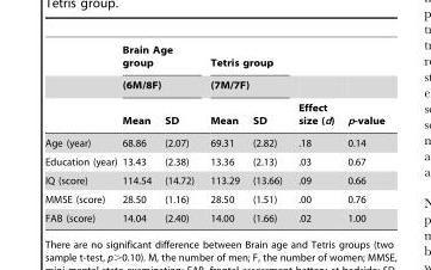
<table><thead><tr><td rowspan="3"></td><td rowspan="2" colspan="2">Brain Age group (6M/8F)</td><td rowspan="2" colspan="2">Tetris group (7M/7F)</td><td rowspan="3">Effect size (d)</td><td rowspan="3">p-value</td></tr><tr></tr><tr><td>Mean</td><td>SD</td><td>Mean</td><td>SD</td></tr></thead><tbody><tr><td>Age (year)</td><td>68.86</td><td>(2.07)</td><td>69.31</td><td>(2.82)</td><td>.18</td><td>0.14</td></tr><tr><td>Education (year)</td><td>13.43</td><td>(2.38)</td><td>13.36</td><td>(2.13)</td><td>.03</td><td>0.67</td></tr><tr><td>IQ (score)</td><td>114.54</td><td>(14.72)</td><td>113.29</td><td>(13.66)</td><td>.09</td><td>0.66</td></tr><tr><td>MMSE (score)</td><td>28.50</td><td>(1.16)</td><td>28.50</td><td>(1.51)</td><td>.00</td><td>0.76</td></tr><tr><td>FAB (score)</td><td>14.04</td><td>(2.40)</td><td>14.00</td><td>(1.66)</td><td>.02</td><td>1.00</td></tr></tbody></table>